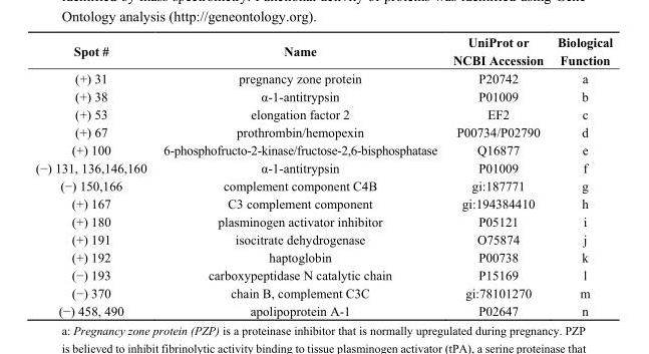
<table><thead><tr><td>Spot #</td><td>Name</td><td>UniProt or NCBI Accession</td><td>Biological Function</td></tr></thead><tbody><tr><td>(+) 31</td><td>pregnancy zone protein</td><td>P20742</td><td>a</td></tr><tr><td>(+) 38</td><td>α-1-antitrypsin</td><td>P01009</td><td>b</td></tr><tr><td>(+) 53</td><td>elongation factor 2</td><td>EF2</td><td>c</td></tr><tr><td>(+) 67</td><td>prothrombin/hemopexin</td><td>P00734/P02790</td><td>d</td></tr><tr><td>(+) 100</td><td>6-phosphofructo-2-kinase/fructose-2,6-bisphosphatase</td><td>Q16877</td><td>e</td></tr><tr><td>(−) 131, 136,146,160</td><td>α-1-antitrypsin</td><td>P01009</td><td>f</td></tr><tr><td>(−) 150,166</td><td>complement component C4B</td><td>gi:187771</td><td>g</td></tr><tr><td>(+) 167</td><td>C3 complement component</td><td>gi:194384410</td><td>h</td></tr><tr><td>(+) 180</td><td>plasminogen activator inhibitor</td><td>P05121</td><td>i</td></tr><tr><td>(+) 191</td><td>isocitrate dehydrogenase</td><td>O75874</td><td>j</td></tr><tr><td>(+) 192</td><td>haptoglobin</td><td>P00738</td><td>k</td></tr><tr><td>(−) 193</td><td>carboxypeptidase N catalytic chain</td><td>P15169</td><td>l</td></tr><tr><td>(−) 370</td><td>chain B, complement C3C</td><td>gi:78101270</td><td>m</td></tr><tr><td>(−) 458, 490</td><td>apolipoprotein A-1</td><td>P02647</td><td>n</td></tr></tbody></table>